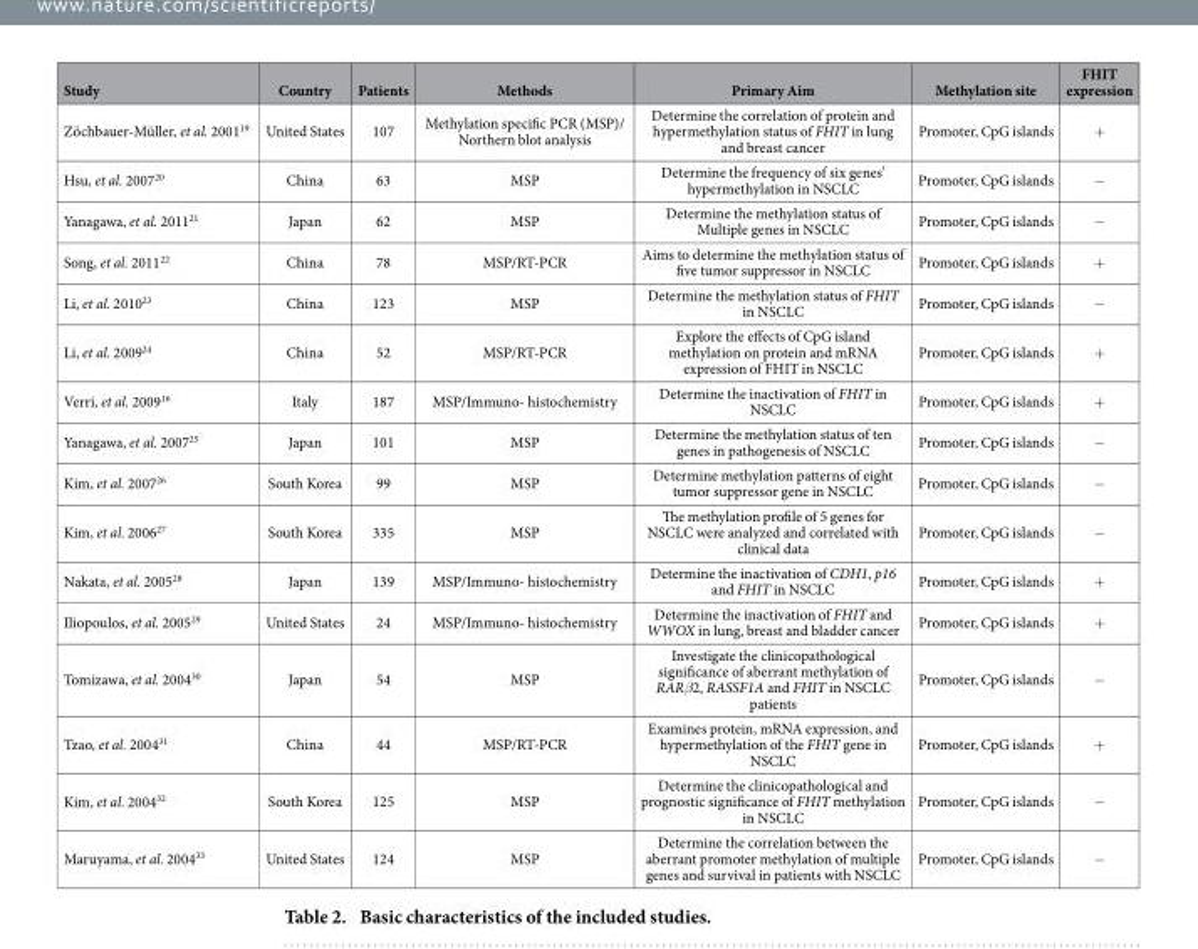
<table><thead><tr><td>Study</td><td>Country</td><td>Patients</td><td>Methods</td><td>Primary Aim</td><td>Methylation site</td><td>FHIT expression</td></tr></thead><tbody><tr><td>Zöchbauer-Müller, et al. 2001<sup>19</sup></td><td>United States</td><td>107</td><td>Methylation specific PCR (MSP)/ Northern blot analysis</td><td>Determine the correlation of protein and hypermethylation status of FHIT in lung and breast cancer</td><td>Promoter, CpG islands</td><td>+</td></tr><tr><td>Hsu, et al. 2007<sup>20</sup></td><td>China</td><td>63</td><td>MSP</td><td>Determine the frequency of six genes’ hypermethylation in NSCLC</td><td>Promoter, CpG islands</td><td>−</td></tr><tr><td>Yanagawa, et al. 2011<sup>21</sup></td><td>Japan</td><td>62</td><td>MSP</td><td>Determine the methylation status of Multiple genes in NSCLC</td><td>Promoter, CpG islands</td><td>−</td></tr><tr><td>Song, et al. 2011<sup>22</sup></td><td>China</td><td>78</td><td>MSP/RT-PCR</td><td>Aims to determine the methylation status of five tumor suppressor in NSCLC</td><td>Promoter, CpG islands</td><td>+</td></tr><tr><td>Li, et al. 2010<sup>23</sup></td><td>China</td><td>123</td><td>MSP</td><td>Determine the methylation status of FHIT in NSCLC</td><td>Promoter, CpG islands</td><td>−</td></tr><tr><td>Li, et al. 2009<sup>24</sup></td><td>China</td><td>52</td><td>MSP/RT-PCR</td><td>Explore the effects of CpG island methylation on protein and mRNA expression of FHIT in NSCLC</td><td>Promoter, CpG islands</td><td>+</td></tr><tr><td>Verri, et al. 2009<sup>16</sup></td><td>Italy</td><td>187</td><td>MSP/Immuno- histochemistry</td><td>Determine the inactivation of FHIT in NSCLC</td><td>Promoter, CpG islands</td><td>+</td></tr><tr><td>Yanagawa, et al. 2007<sup>25</sup></td><td>Japan</td><td>101</td><td>MSP</td><td>Determine the methylation status of ten genes in pathogenesis of NSCLC</td><td>Promoter, CpG islands</td><td>−</td></tr><tr><td>Kim, et al. 2007<sup>26</sup></td><td>South Korea</td><td>99</td><td>MSP</td><td>Determine methylation patterns of eight tumor suppressor gene in NSCLC</td><td>Promoter, CpG islands</td><td>−</td></tr><tr><td>Kim, et al. 2006<sup>27</sup></td><td>South Korea</td><td>335</td><td>MSP</td><td>The methylation profile of 5 genes for NSCLC were analyzed and correlated with clinical data</td><td>Promoter, CpG islands</td><td>−</td></tr><tr><td>Nakata, et al. 2005<sup>28</sup></td><td>Japan</td><td>139</td><td>MSP/Immuno- histochemistry</td><td>Determine the inactivation of CDH1, p16 and FHIT in NSCLC</td><td>Promoter, CpG islands</td><td>+</td></tr><tr><td>Iliopoulos, et al. 2005<sup>29</sup></td><td>United States</td><td>24</td><td>MSP/Immuno- histochemistry</td><td>Determine the inactivation of FHIT and WWOX in lung, breast and bladder cancer</td><td>Promoter, CpG islands</td><td>+</td></tr><tr><td>Tomizawa, et al. 2004<sup>30</sup></td><td>Japan</td><td>54</td><td>MSP</td><td>Investigate the clinicopathological significance of aberrant methylation of RARβ2, RASSF1A and FHIT in NSCLC patients</td><td>Promoter, CpG islands</td><td>−</td></tr><tr><td>Tzao, et al. 2004<sup>31</sup></td><td>China</td><td>44</td><td>MSP/RT-PCR</td><td>Examines protein, mRNA expression, and hypermethylation of the FHIT gene in NSCLC</td><td>Promoter, CpG islands</td><td>+</td></tr><tr><td>Kim, et al. 2004<sup>32</sup></td><td>South Korea</td><td>125</td><td>MSP</td><td>Determine the clinicopathological and prognostic significance of FHIT methylation in NSCLC</td><td>Promoter, CpG islands</td><td>−</td></tr><tr><td>Maruyama, et al. 2004<sup>33</sup></td><td>United States</td><td>124</td><td>MSP</td><td>Determine the correlation between the aberrant promoter methylation of multiple genes and survival in patients with NSCLC</td><td>Promoter, CpG islands</td><td>−</td></tr></tbody></table>